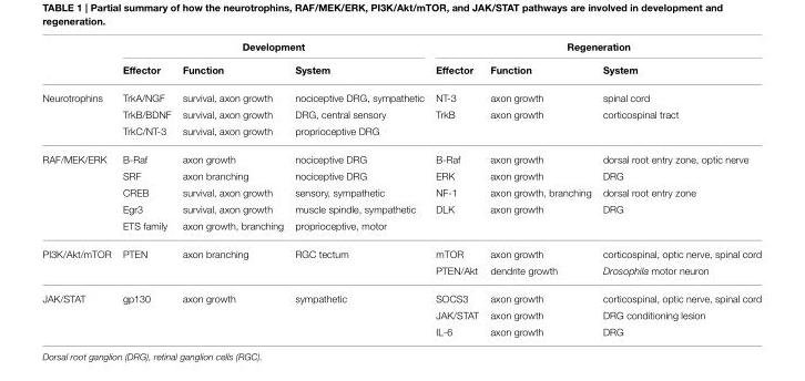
<table><thead><tr><td rowspan="2"></td><td colspan="3">Development</td><td colspan="3">Regeneration</td></tr><tr><td>Effector</td><td>Function</td><td>System</td><td>Effector</td><td>Function</td><td>System</td></tr></thead><tbody><tr><td rowspan="3">Neurotrophins</td><td>TrkA/NGF</td><td>survival, axon growth</td><td>nociceptive DRG, sympathetic</td><td>NT-3</td><td>axon growth</td><td>spinal cord</td></tr><tr><td>TrkB/BDNF</td><td>survival, axon growth</td><td>DRG, central sensory</td><td>TrkB</td><td>axon growth</td><td>corticospinal tract</td></tr><tr><td>TrkC/NT-3</td><td>survival, axon growth</td><td>proprioceptive DRG</td><td></td><td></td><td></td></tr><tr><td rowspan="5">RAF/MEK/ERK</td><td>B-Raf</td><td>axon growth</td><td>nociceptive DRG</td><td>B-Raf</td><td>axon growth</td><td>dorsal root entry zone, optic nerve</td></tr><tr><td>SRF</td><td>axon branching</td><td>nociceptive DRG</td><td>ERK</td><td>axon growth</td><td>DRG</td></tr><tr><td>CREB</td><td>survival, axon growth</td><td>sensory, sympathetic</td><td>NF-1</td><td>axon growth, branching</td><td>dorsal root entry zone</td></tr><tr><td>Egr3</td><td>survival, axon growth</td><td>muscle spindle, sympathetic</td><td>DLK</td><td>axon growth</td><td>DRG</td></tr><tr><td>ETS family</td><td>axon growth, branching</td><td>proprioceptive, motor</td><td></td><td></td><td></td></tr><tr><td rowspan="2">PI3K/Akt/mTOR</td><td>PTEN</td><td>axon branching</td><td>RGC tectum</td><td>mTOR</td><td>axon growth</td><td>corticospinal, optic nerve, spinal cord</td></tr><tr><td></td><td></td><td></td><td>PTEN/Akt</td><td>dendrite growth</td><td>Drosophila motor neuron</td></tr><tr><td rowspan="3">JAK/STAT</td><td>gp130</td><td>axon growth</td><td>sympathetic</td><td>SOCS3</td><td>axon growth</td><td>corticospinal, optic nerve, spinal cord</td></tr><tr><td></td><td></td><td></td><td>JAK/STAT</td><td>axon growth</td><td>DRG conditioning lesion</td></tr><tr><td></td><td></td><td></td><td>IL-6</td><td>axon growth</td><td>DRG</td></tr></tbody></table>